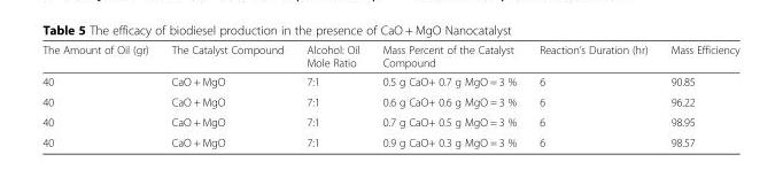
<table><thead><tr><td>The Amount of Oil (gr)</td><td>The Catalyst Compound</td><td>Alcohol: Oil Mole Ratio</td><td>Mass Percent of the Catalyst Compound</td><td>Reaction’s Duration (hr)</td><td>Mass Efficiency</td></tr></thead><tbody><tr><td>40</td><td>CaO + MgO</td><td>7:1</td><td>0.5 g CaO+ 0.7 g MgO = 3 %</td><td>6</td><td>90.85</td></tr><tr><td>40</td><td>CaO + MgO</td><td>7:1</td><td>0.6 g CaO+ 0.6 g MgO = 3 %</td><td>6</td><td>96.22</td></tr><tr><td>40</td><td>CaO + MgO</td><td>7:1</td><td>0.7 g CaO+ 0.5 g MgO = 3 %</td><td>6</td><td>98.95</td></tr><tr><td>40</td><td>CaO + MgO</td><td>7:1</td><td>0.9 g CaO+ 0.3 g MgO = 3 %</td><td>6</td><td>98.57</td></tr></tbody></table>